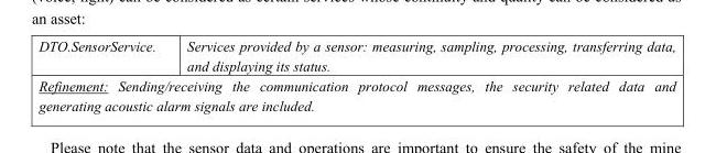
<table><tbody><tr><td>DTO.SensorService.</td><td>Services provided by a sensor: measuring, sampling, processing, transferring data, and displaying its status.</td></tr><tr><td colspan="2">Refinement: Sending/receiving the communication protocol messages, the security related data and generating acoustic alarm signals are included.</td></tr></tbody></table>